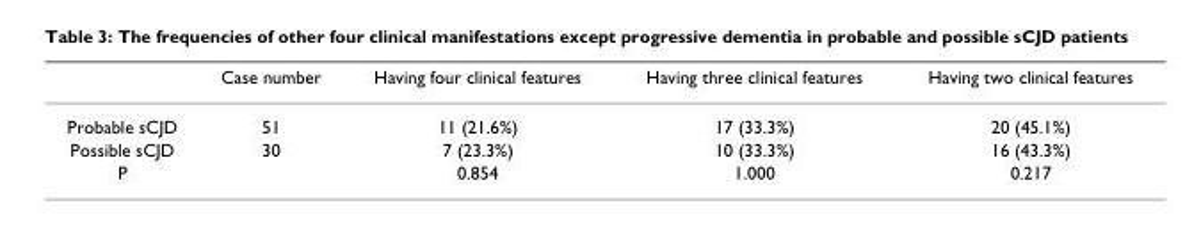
<table><thead><tr><td></td><td>Case number</td><td>Having four clinical features</td><td>Having three clinical features</td><td>Having two clinical features</td></tr></thead><tbody><tr><td>Probable sCJD</td><td>51</td><td>11 (21.6%)</td><td>17 (33.3%)</td><td>20 (45.1%)</td></tr><tr><td>Possible sCJD</td><td>30</td><td>7 (23.3%)</td><td>10 (33.3%)</td><td>16 (43.3%)</td></tr><tr><td>P</td><td></td><td>0.854</td><td>1.000</td><td>0.217</td></tr></tbody></table>